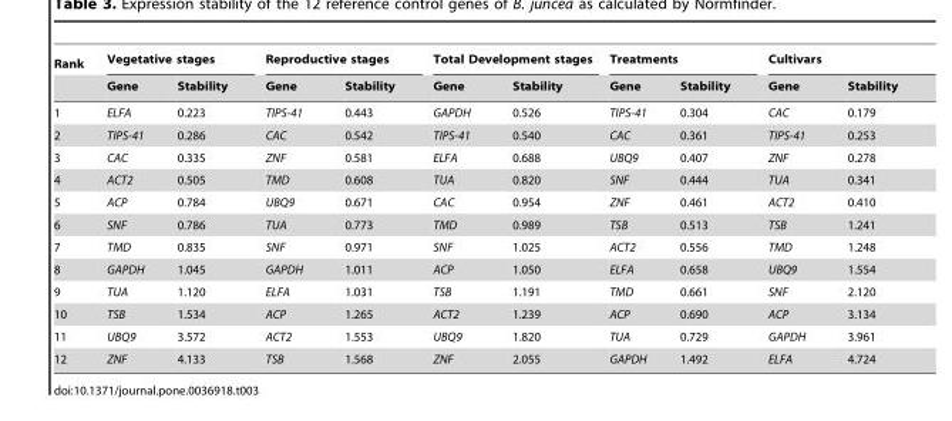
<table><thead><tr><td rowspan="2">Rank</td><td colspan="2">Vegetative stages</td><td colspan="2">Reproductive stages</td><td colspan="2">Total Development stages</td><td colspan="2">Treatments</td><td colspan="2">Cultivars</td></tr><tr><td>Gene</td><td>Stability</td><td>Gene</td><td>Stability</td><td>Gene</td><td>Stability</td><td>Gene</td><td>Stability</td><td>Gene</td><td>Stability</td></tr></thead><tbody><tr><td>1</td><td>ELFA</td><td>0.223</td><td>TIPS-41</td><td>0.443</td><td>GAPDH</td><td>0.526</td><td>TIPS-41</td><td>0.304</td><td>CAC</td><td>0.179</td></tr><tr><td>2</td><td>TIPS-41</td><td>0.286</td><td>CAC</td><td>0.542</td><td>TIPS-41</td><td>0.540</td><td>CAC</td><td>0.361</td><td>TIPS-41</td><td>0.253</td></tr><tr><td>3</td><td>CAC</td><td>0.335</td><td>ZNF</td><td>0.581</td><td>ELFA</td><td>0.688</td><td>UBQ9</td><td>0.407</td><td>ZNF</td><td>0.278</td></tr><tr><td>4</td><td>ACT2</td><td>0.505</td><td>TMD</td><td>0.608</td><td>TUA</td><td>0.820</td><td>SNF</td><td>0.444</td><td>TUA</td><td>0.341</td></tr><tr><td>5</td><td>ACP</td><td>0.784</td><td>UBQ9</td><td>0.671</td><td>CAC</td><td>0.954</td><td>ZNF</td><td>0.461</td><td>ACT2</td><td>0.410</td></tr><tr><td>6</td><td>SNF</td><td>0.786</td><td>TUA</td><td>0.773</td><td>TMD</td><td>0.989</td><td>TSB</td><td>0.513</td><td>TSB</td><td>1.241</td></tr><tr><td>7</td><td>TMD</td><td>0.835</td><td>SNF</td><td>0.971</td><td>SNF</td><td>1.025</td><td>ACT2</td><td>0.556</td><td>TMD</td><td>1.248</td></tr><tr><td>8</td><td>GAPDH</td><td>1.045</td><td>GAPDH</td><td>1.011</td><td>ACP</td><td>1.050</td><td>ELFA</td><td>0.658</td><td>UBQ9</td><td>1.554</td></tr><tr><td>9</td><td>TUA</td><td>1.120</td><td>ELFA</td><td>1.031</td><td>TSB</td><td>1.191</td><td>TMD</td><td>0.661</td><td>SNF</td><td>2.120</td></tr><tr><td>10</td><td>TSB</td><td>1.534</td><td>ACP</td><td>1.265</td><td>ACT2</td><td>1.239</td><td>ACP</td><td>0.690</td><td>ACP</td><td>3.134</td></tr><tr><td>11</td><td>UBQ9</td><td>3.572</td><td>ACT2</td><td>1.553</td><td>UBQ9</td><td>1.820</td><td>TUA</td><td>0.729</td><td>GAPDH</td><td>3.961</td></tr><tr><td>12</td><td>ZNF</td><td>4.133</td><td>TSB</td><td>1.568</td><td>ZNF</td><td>2.055</td><td>GAPDH</td><td>1.492</td><td>ELFA</td><td>4.724</td></tr></tbody></table>